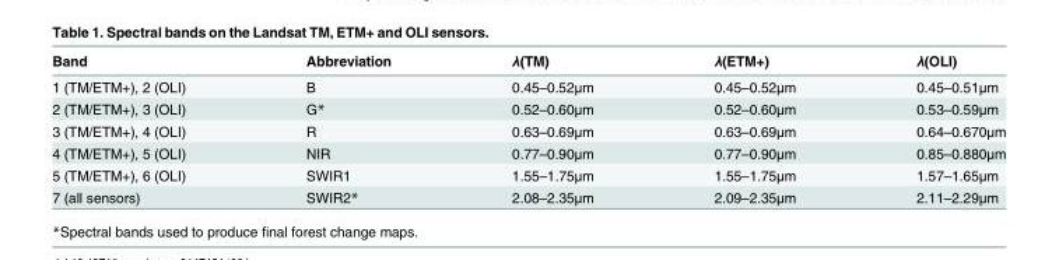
<table><thead><tr><td>Band</td><td>Abbreviation</td><td>λ(TM)</td><td>λ(ETM+)</td><td>λ(OLI)</td></tr></thead><tbody><tr><td>1 (TM/ETM+), 2 (OLI)</td><td>B</td><td>0.45–0.52μm</td><td>0.45–0.52μm</td><td>0.45–0.51μm</td></tr><tr><td>2 (TM/ETM+), 3 (OLI)</td><td>G*</td><td>0.52–0.60μm</td><td>0.52–0.60μm</td><td>0.53–0.59μm</td></tr><tr><td>3 (TM/ETM+), 4 (OLI)</td><td>R</td><td>0.63–0.69μm</td><td>0.63–0.69μm</td><td>0.64–0.670μm</td></tr><tr><td>4 (TM/ETM+), 5 (OLI)</td><td>NIR</td><td>0.77–0.90μm</td><td>0.77–0.90μm</td><td>0.85–0.880μm</td></tr><tr><td>5 (TM/ETM+), 6 (OLI)</td><td>SWIR1</td><td>1.55–1.75μm</td><td>1.55–1.75μm</td><td>1.57–1.65μm</td></tr><tr><td>7 (all sensors)</td><td>SWIR2*</td><td>2.08–2.35μm</td><td>2.09–2.35μm</td><td>2.11–2.29μm</td></tr></tbody></table>